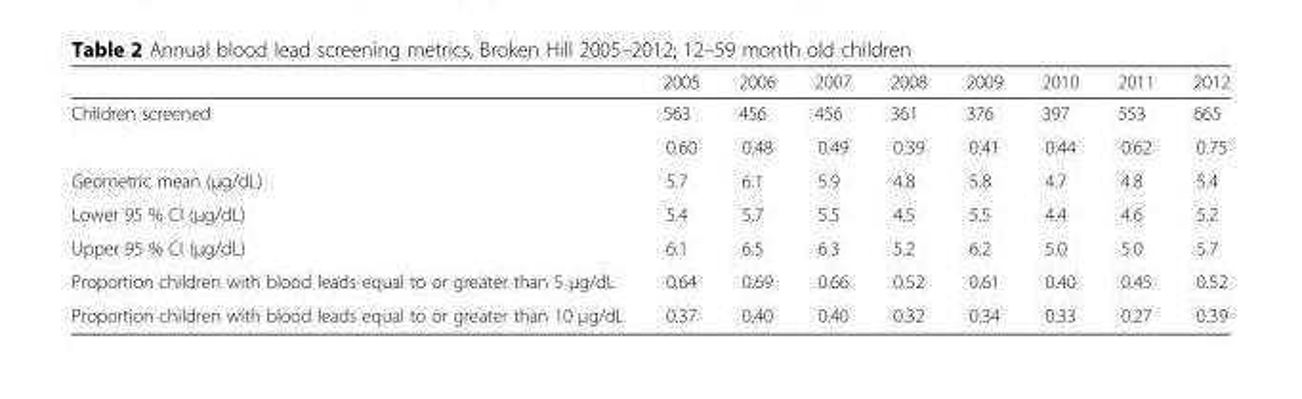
<table><thead><tr><td></td><td>2005</td><td>2006</td><td>2007</td><td>2008</td><td>2009</td><td>2010</td><td>2011</td><td>2012</td></tr></thead><tbody><tr><td rowspan="2">Children screened</td><td>563</td><td>456</td><td>456</td><td>361</td><td>376</td><td>397</td><td>553</td><td>665</td></tr><tr><td>0.60</td><td>0.48</td><td>0.49</td><td>0.39</td><td>0.41</td><td>0.44</td><td>0.62</td><td>0.75</td></tr><tr><td>Geometric mean (μg/dL)</td><td>5.7</td><td>6.1</td><td>5.9</td><td>4.8</td><td>5.8</td><td>4.7</td><td>4.8</td><td>5.4</td></tr><tr><td>Lower 95 % CI (μg/dL)</td><td>5.4</td><td>5.7</td><td>5.5</td><td>4.5</td><td>5.5</td><td>4.4</td><td>4.6</td><td>5.2</td></tr><tr><td>Upper 95 % CI (μg/dL)</td><td>6.1</td><td>6.5</td><td>6.3</td><td>5.2</td><td>6.2</td><td>5.0</td><td>5.0</td><td>5.7</td></tr><tr><td>Proportion children with blood leads equal to or greater than 5 μg/dL</td><td>0.64</td><td>0.69</td><td>0.66</td><td>0.52</td><td>0.61</td><td>0.40</td><td>0.45</td><td>0.52</td></tr><tr><td>Proportion children with blood leads equal to or greater than 10 μg/dL</td><td>0.37</td><td>0.40</td><td>0.40</td><td>0.32</td><td>0.34</td><td>0.33</td><td>0.27</td><td>0.39</td></tr></tbody></table>